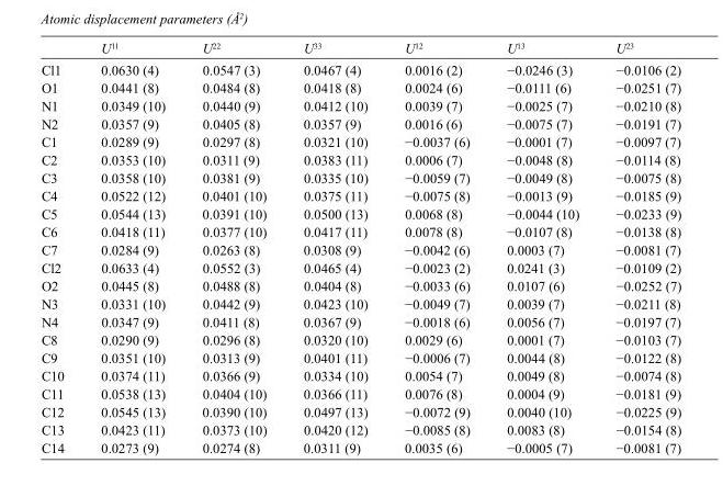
<table><thead><tr><td></td><td>U<sup>11</sup></td><td>U<sup>22</sup></td><td>U<sup>33</sup></td><td>U<sup>12</sup></td><td>U<sup>13</sup></td><td>U<sup>23</sup></td></tr></thead><tbody><tr><td>Cl1</td><td>0.0630 (4)</td><td>0.0547 (3)</td><td>0.0467 (4)</td><td>0.0016 (2)</td><td>−0.0246 (3)</td><td>−0.0106 (2)</td></tr><tr><td>O1</td><td>0.0441 (8)</td><td>0.0484 (8)</td><td>0.0418 (8)</td><td>0.0024 (6)</td><td>−0.0111 (6)</td><td>−0.0251 (7)</td></tr><tr><td>N1</td><td>0.0349 (10)</td><td>0.0440 (9)</td><td>0.0412 (10)</td><td>0.0039 (7)</td><td>−0.0025 (7)</td><td>−0.0210 (8)</td></tr><tr><td>N2</td><td>0.0357 (9)</td><td>0.0405 (8)</td><td>0.0357 (9)</td><td>0.0016 (6)</td><td>−0.0075 (7)</td><td>−0.0191 (7)</td></tr><tr><td>C1</td><td>0.0289 (9)</td><td>0.0297 (8)</td><td>0.0321 (10)</td><td>−0.0037 (6)</td><td>−0.0001 (7)</td><td>−0.0097 (7)</td></tr><tr><td>C2</td><td>0.0353 (10)</td><td>0.0311 (9)</td><td>0.0383 (11)</td><td>0.0006 (7)</td><td>−0.0048 (8)</td><td>−0.0114 (8)</td></tr><tr><td>C3</td><td>0.0358 (10)</td><td>0.0381 (9)</td><td>0.0335 (10)</td><td>−0.0059 (7)</td><td>−0.0049 (8)</td><td>−0.0075 (8)</td></tr><tr><td>C4</td><td>0.0522 (12)</td><td>0.0401 (10)</td><td>0.0375 (11)</td><td>−0.0075 (8)</td><td>−0.0013 (9)</td><td>−0.0185 (9)</td></tr><tr><td>C5</td><td>0.0544 (13)</td><td>0.0391 (10)</td><td>0.0500 (13)</td><td>0.0068 (8)</td><td>−0.0044 (10)</td><td>−0.0233 (9)</td></tr><tr><td>C6</td><td>0.0418 (11)</td><td>0.0377 (10)</td><td>0.0417 (11)</td><td>0.0078 (8)</td><td>−0.0107 (8)</td><td>−0.0138 (8)</td></tr><tr><td>C7</td><td>0.0284 (9)</td><td>0.0263 (8)</td><td>0.0308 (9)</td><td>−0.0042 (6)</td><td>0.0003 (7)</td><td>−0.0081 (7)</td></tr><tr><td>Cl2</td><td>0.0633 (4)</td><td>0.0552 (3)</td><td>0.0465 (4)</td><td>−0.0023 (2)</td><td>0.0241 (3)</td><td>−0.0109 (2)</td></tr><tr><td>O2</td><td>0.0445 (8)</td><td>0.0488 (8)</td><td>0.0404 (8)</td><td>−0.0033 (6)</td><td>0.0107 (6)</td><td>−0.0252 (7)</td></tr><tr><td>N3</td><td>0.0331 (10)</td><td>0.0442 (9)</td><td>0.0423 (10)</td><td>−0.0049 (7)</td><td>0.0039 (7)</td><td>−0.0211 (8)</td></tr><tr><td>N4</td><td>0.0347 (9)</td><td>0.0411 (8)</td><td>0.0367 (9)</td><td>−0.0018 (6)</td><td>0.0056 (7)</td><td>−0.0197 (7)</td></tr><tr><td>C8</td><td>0.0290 (9)</td><td>0.0296 (8)</td><td>0.0320 (10)</td><td>0.0029 (6)</td><td>0.0001 (7)</td><td>−0.0103 (7)</td></tr><tr><td>C9</td><td>0.0351 (10)</td><td>0.0313 (9)</td><td>0.0401 (11)</td><td>−0.0006 (7)</td><td>0.0044 (8)</td><td>−0.0122 (8)</td></tr><tr><td>C10</td><td>0.0374 (11)</td><td>0.0366 (9)</td><td>0.0334 (10)</td><td>0.0054 (7)</td><td>0.0049 (8)</td><td>−0.0074 (8)</td></tr><tr><td>C11</td><td>0.0538 (13)</td><td>0.0404 (10)</td><td>0.0366 (11)</td><td>0.0076 (8)</td><td>0.0004 (9)</td><td>−0.0181 (9)</td></tr><tr><td>C12</td><td>0.0545 (13)</td><td>0.0390 (10)</td><td>0.0497 (13)</td><td>−0.0072 (9)</td><td>0.0040 (10)</td><td>−0.0225 (9)</td></tr><tr><td>C13</td><td>0.0423 (11)</td><td>0.0373 (10)</td><td>0.0420 (12)</td><td>−0.0085 (8)</td><td>0.0083 (8)</td><td>−0.0154 (8)</td></tr><tr><td>C14</td><td>0.0273 (9)</td><td>0.0274 (8)</td><td>0.0311 (9)</td><td>0.0035 (6)</td><td>−0.0005 (7)</td><td>−0.0081 (7)</td></tr></tbody></table>